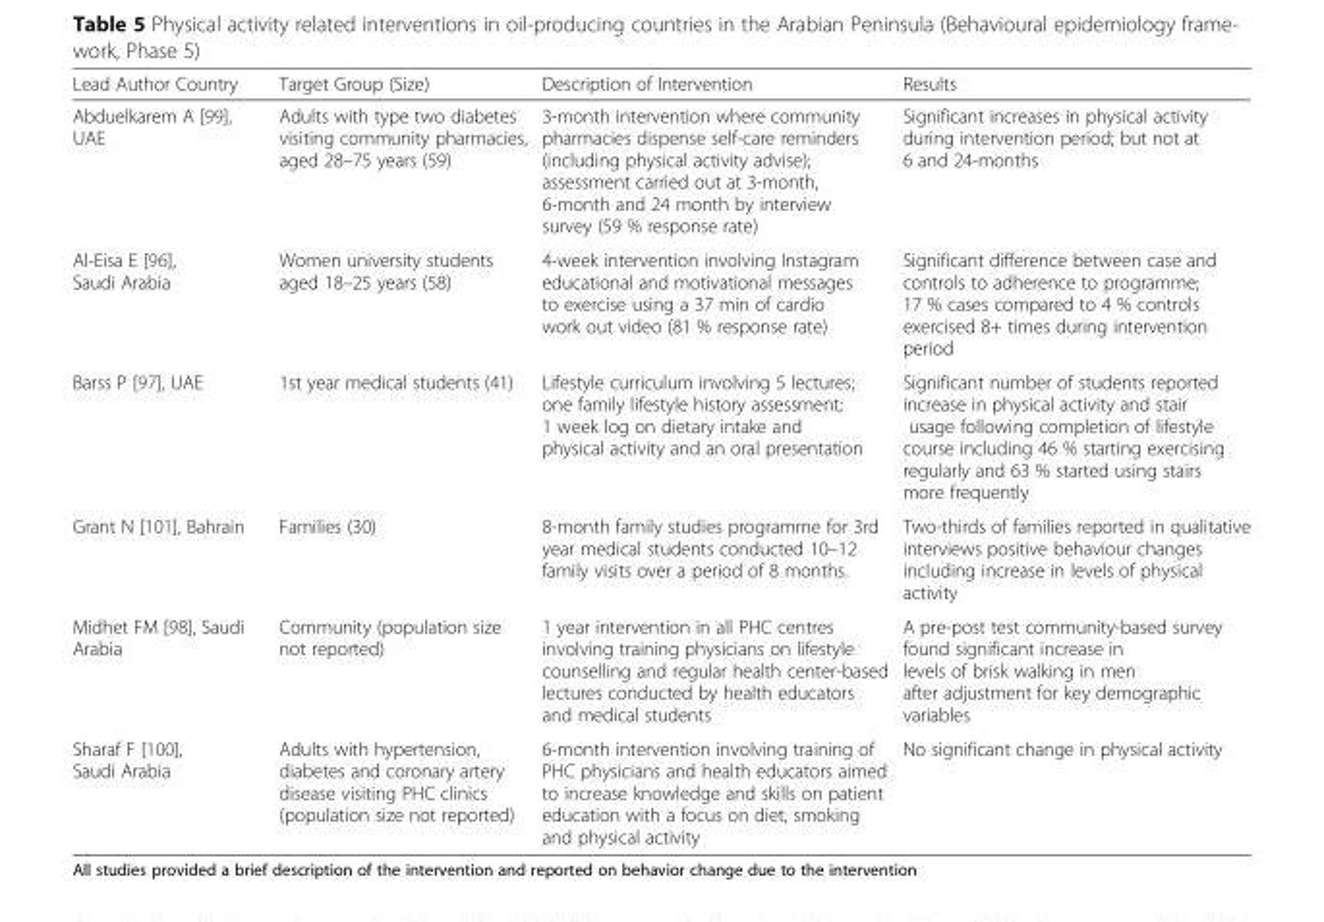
<table><thead><tr><td>Lead Author Country</td><td>Target Group (Size)</td><td>Description of Intervention</td><td>Results</td></tr></thead><tbody><tr><td>Abduelkarem A [99], UAE</td><td>Adults with type two diabetes visiting community pharmacies, aged 28–75 years (59)</td><td>3-month intervention where community pharmacies dispense self-care reminders (including physical activity advise); assessment carried out at 3-month, 6-month and 24 month by interview survey (59 % response rate)</td><td>Significant increases in physical activity during intervention period; but not at 6 and 24-months</td></tr><tr><td>Al-Eisa E [96], Saudi Arabia</td><td>Women university students aged 18–25 years (58)</td><td>4-week intervention involving Instagram educational and motivational messages to exercise using a 37 min of cardio work out video (81 % response rate)</td><td>Significant difference between case and controls to adherence to programme; 17 % cases compared to 4 % controls exercised 8+ times during intervention period</td></tr><tr><td>Barss P [97], UAE</td><td>1st year medical students (41)</td><td>Lifestyle curriculum involving 5 lectures; one family lifestyle history assessment; 1 week log on dietary intake and physical activity and an oral presentation</td><td>Significant number of students reported increase in physical activity and stair usage following completion of lifestyle course including 46 % starting exercising regularly and 63 % started using stairs more frequently</td></tr><tr><td>Grant N [101], Bahrain</td><td>Families (30)</td><td>8-month family studies programme for 3rd year medical students conducted 10–12 family visits over a period of 8 months.</td><td>Two-thirds of families reported in qualitative interviews positive behaviour changes including increase in levels of physical activity</td></tr><tr><td>Midhet FM [98], Saudi Arabia</td><td>Community (population size not reported)</td><td>1 year intervention in all PHC centres involving training physicians on lifestyle counselling and regular health center-based lectures conducted by health educators and medical students</td><td>A pre-post test community-based survey found significant increase in levels of brisk walking in men after adjustment for key demographic variables</td></tr><tr><td>Sharaf F [100], Saudi Arabia</td><td>Adults with hypertension, diabetes and coronary artery disease visiting PHC clinics (population size not reported)</td><td>6-month intervention involving training of PHC physicians and health educators aimed to increase knowledge and skills on patient education with a focus on diet, smoking and physical activity</td><td>No significant change in physical activity</td></tr></tbody></table>